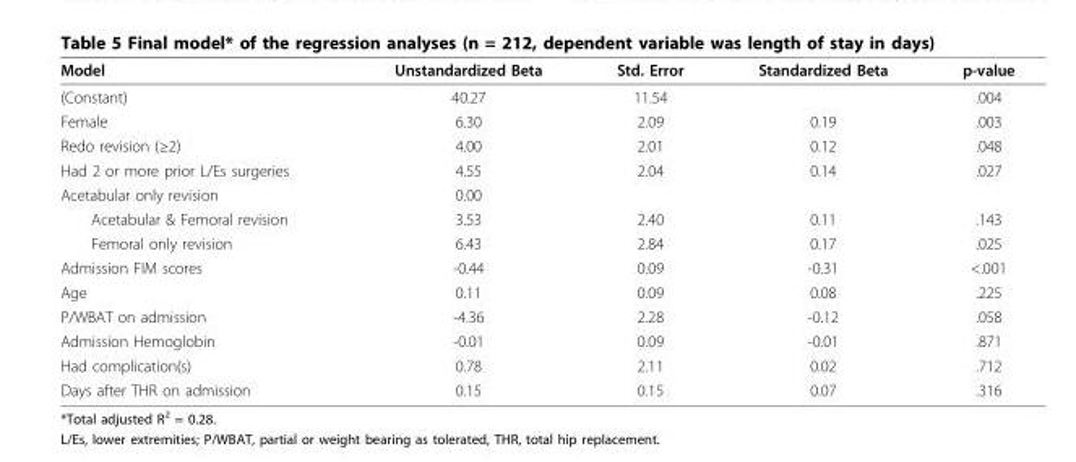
<table><thead><tr><td>Model</td><td>Unstandardized Beta</td><td>Std. Error</td><td>Standardized Beta</td><td>p-value</td></tr></thead><tbody><tr><td>(Constant)</td><td>40.27</td><td>11.54</td><td></td><td>.004</td></tr><tr><td>Female</td><td>6.30</td><td>2.09</td><td>0.19</td><td>.003</td></tr><tr><td>Redo revision (≥2)</td><td>4.00</td><td>2.01</td><td>0.12</td><td>.048</td></tr><tr><td>Had 2 or more prior L/Es surgeries</td><td>4.55</td><td>2.04</td><td>0.14</td><td>.027</td></tr><tr><td>Acetabular only revision</td><td>0.00</td><td></td><td></td><td></td></tr><tr><td>Acetabular &amp; Femoral revision</td><td>3.53</td><td>2.40</td><td>0.11</td><td>.143</td></tr><tr><td>Femoral only revision</td><td>6.43</td><td>2.84</td><td>0.17</td><td>.025</td></tr><tr><td>Admission FIM scores</td><td>-0.44</td><td>0.09</td><td>-0.31</td><td>&lt;.001</td></tr><tr><td>Age</td><td>0.11</td><td>0.09</td><td>0.08</td><td>.225</td></tr><tr><td>P/WBAT on admission</td><td>-4.36</td><td>2.28</td><td>-0.12</td><td>.058</td></tr><tr><td>Admission Hemoglobin</td><td>-0.01</td><td>0.09</td><td>-0.01</td><td>.871</td></tr><tr><td>Had complication(s)</td><td>0.78</td><td>2.11</td><td>0.02</td><td>.712</td></tr><tr><td>Days after THR on admission</td><td>0.15</td><td>0.15</td><td>0.07</td><td>.316</td></tr></tbody></table>